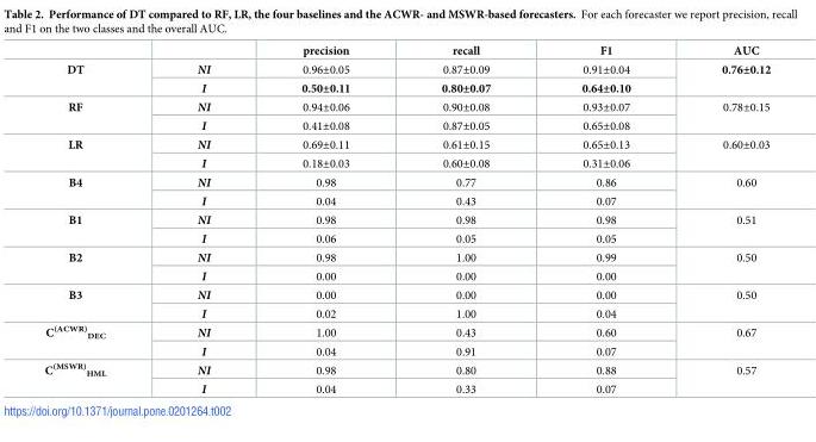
<table><thead><tr><td></td><td></td><td>precision</td><td>recall</td><td>F1</td><td>AUC</td></tr></thead><tbody><tr><td rowspan="2">DT</td><td>NI</td><td>0.96±0.05</td><td>0.87±0.09</td><td>0.91±0.04</td><td rowspan="2">0.76±0.12</td></tr><tr><td>I</td><td>0.50±0.11</td><td>0.80±0.07</td><td>0.64±0.10</td></tr><tr><td rowspan="2">RF</td><td>NI</td><td>0.94±0.06</td><td>0.90±0.08</td><td>0.93±0.07</td><td rowspan="2">0.78±0.15</td></tr><tr><td>I</td><td>0.41±0.08</td><td>0.87±0.05</td><td>0.65±0.08</td></tr><tr><td rowspan="2">LR</td><td>NI</td><td>0.69±0.11</td><td>0.61±0.15</td><td>0.65±0.13</td><td rowspan="2">0.60±0.03</td></tr><tr><td>I</td><td>0.18±0.03</td><td>0.60±0.08</td><td>0.31±0.06</td></tr><tr><td rowspan="2">B4</td><td>NI</td><td>0.98</td><td>0.77</td><td>0.86</td><td rowspan="2">0.60</td></tr><tr><td>I</td><td>0.04</td><td>0.43</td><td>0.07</td></tr><tr><td rowspan="2">B1</td><td>NI</td><td>0.98</td><td>0.98</td><td>0.98</td><td rowspan="2">0.51</td></tr><tr><td>I</td><td>0.06</td><td>0.05</td><td>0.05</td></tr><tr><td rowspan="2">B2</td><td>NI</td><td>0.98</td><td>1.00</td><td>0.99</td><td rowspan="2">0.50</td></tr><tr><td>I</td><td>0.00</td><td>0.00</td><td>0.00</td></tr><tr><td rowspan="2">B3</td><td>NI</td><td>0.00</td><td>0.00</td><td>0.00</td><td rowspan="2">0.50</td></tr><tr><td>I</td><td>0.02</td><td>1.00</td><td>0.04</td></tr><tr><td rowspan="2">C<sup>(ACWR)</sup> <sub>DEC</sub></td><td>NI</td><td>1.00</td><td>0.43</td><td>0.60</td><td rowspan="2">0.67</td></tr><tr><td>I</td><td>0.04</td><td>0.91</td><td>0.07</td></tr><tr><td rowspan="2">C<sup>(MSWR)</sup> <sub>HML</sub></td><td>NI</td><td>0.98</td><td>0.80</td><td>0.88</td><td rowspan="2">0.57</td></tr><tr><td>I</td><td>0.04</td><td>0.33</td><td>0.07</td></tr></tbody></table>